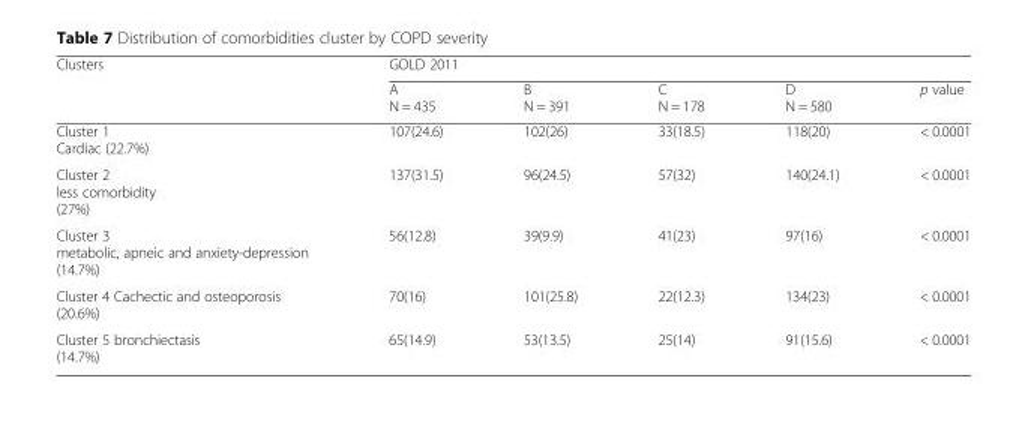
<table><thead><tr><td rowspan="2">Clusters</td><td colspan="5">GOLD 2011</td></tr><tr><td>A N = 435</td><td>B N = 391</td><td>C N = 178</td><td>D N = 580</td><td>p value</td></tr></thead><tbody><tr><td>Cluster 1 Cardiac (22.7%)</td><td>107(24.6)</td><td>102(26)</td><td>33(18.5)</td><td>118(20)</td><td>&lt; 0.0001</td></tr><tr><td>Cluster 2 less comorbidity (27%)</td><td>137(31.5)</td><td>96(24.5)</td><td>57(32)</td><td>140(24.1)</td><td>&lt; 0.0001</td></tr><tr><td>Cluster 3 metabolic, apneic and anxiety-depression (14.7%)</td><td>56(12.8)</td><td>39(9.9)</td><td>41(23)</td><td>97(16)</td><td>&lt; 0.0001</td></tr><tr><td>Cluster 4 Cachectic and osteoporosis (20.6%)</td><td>70(16)</td><td>101(25.8)</td><td>22(12.3)</td><td>134(23)</td><td>&lt; 0.0001</td></tr><tr><td>Cluster 5 bronchiectasis (14.7%)</td><td>65(14.9)</td><td>53(13.5)</td><td>25(14)</td><td>91(15.6)</td><td>&lt; 0.0001</td></tr></tbody></table>